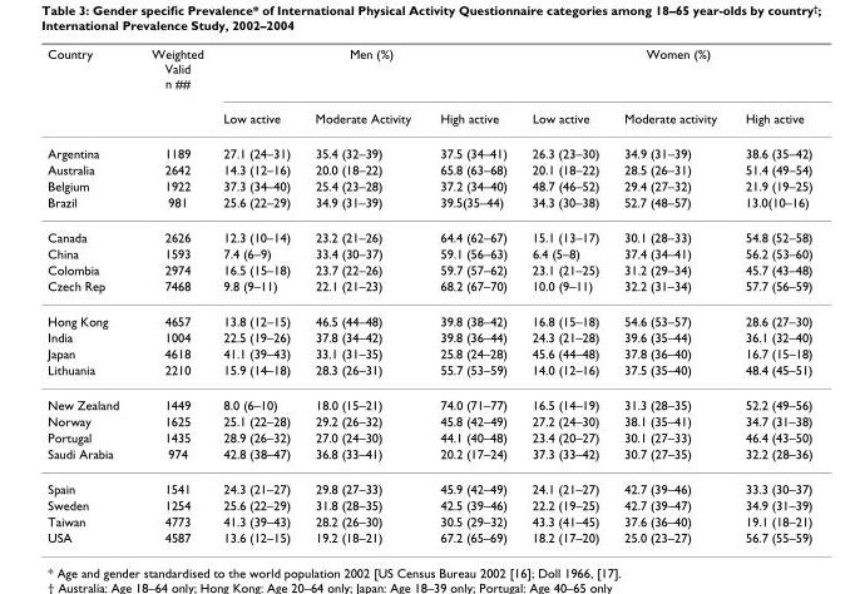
<table><thead><tr><td rowspan="2">Country</td><td rowspan="2">Weighted Valid n ##</td><td colspan="3">Men (%)</td><td colspan="3">Women (%)</td></tr><tr><td>Low active</td><td>Moderate Activity</td><td>High active</td><td>Low active</td><td>Moderate activity</td><td>High active</td></tr></thead><tbody><tr><td>Argentina</td><td>1189</td><td>27.1 (24–31)</td><td>35.4 (32–39)</td><td>37.5 (34–41)</td><td>26.3 (23–30)</td><td>34.9 (31–39)</td><td>38.6 (35–42)</td></tr><tr><td>Australia</td><td>2642</td><td>14.3 (12–16)</td><td>20.0 (18–22)</td><td>65.8 (63–68)</td><td>20.1 (18–22)</td><td>28.5 (26–31)</td><td>51.4 (49–54)</td></tr><tr><td>Belgium</td><td>1922</td><td>37.3 (34–40)</td><td>25.4 (23–28)</td><td>37.2 (34–40)</td><td>48.7 (46–52)</td><td>29.4 (27–32)</td><td>21.9 (19–25)</td></tr><tr><td>Brazil</td><td>981</td><td>25.6 (22–29)</td><td>34.9 (31–39)</td><td>39.5(35–44)</td><td>34.3 (30–38)</td><td>52.7 (48–57)</td><td>13.0(10–16)</td></tr><tr><td>Canada</td><td>2626</td><td>12.3 (10–14)</td><td>23.2 (21–26)</td><td>64.4 (62–67)</td><td>15.1 (13–17)</td><td>30.1 (28–33)</td><td>54.8 (52–58)</td></tr><tr><td>China</td><td>1593</td><td>7.4 (6–9)</td><td>33.4 (30–37)</td><td>59.1 (56–63)</td><td>6.4 (5–8)</td><td>37.4 (34–41)</td><td>56.2 (53–60)</td></tr><tr><td>Colombia</td><td>2974</td><td>16.5 (15–18)</td><td>23.7 (22–26)</td><td>59.7 (57–62)</td><td>23.1 (21–25)</td><td>31.2 (29–34)</td><td>45.7 (43–48)</td></tr><tr><td>Czech Rep</td><td>7468</td><td>9.8 (9–11)</td><td>22.1 (21–23)</td><td>68.2 (67–70)</td><td>10.0 (9–11)</td><td>32.2 (31–34)</td><td>57.7 (56–59)</td></tr><tr><td>Hong Kong</td><td>4657</td><td>13.8 (12–15)</td><td>46.5 (44–48)</td><td>39.8 (38–42)</td><td>16.8 (15–18)</td><td>54.6 (53–57)</td><td>28.6 (27–30)</td></tr><tr><td>India</td><td>1004</td><td>22.5 (19–26)</td><td>37.8 (34–42)</td><td>39.8 (36–44)</td><td>24.3 (21–28)</td><td>39.6 (35–44)</td><td>36.1 (32–40)</td></tr><tr><td>Japan</td><td>4618</td><td>41.1 (39–43)</td><td>33.1 (31–35)</td><td>25.8 (24–28)</td><td>45.6 (44–48)</td><td>37.8 (36–40)</td><td>16.7 (15–18)</td></tr><tr><td>Lithuania</td><td>2210</td><td>15.9 (14–18)</td><td>28.3 (26–31)</td><td>55.7 (53–59)</td><td>14.0 (12–16)</td><td>37.5 (35–40)</td><td>48.4 (45–51)</td></tr><tr><td>New Zealand</td><td>1449</td><td>8.0 (6–10)</td><td>18.0 (15–21)</td><td>74.0 (71–77)</td><td>16.5 (14–19)</td><td>31.3 (28–35)</td><td>52.2 (49–56)</td></tr><tr><td>Norway</td><td>1625</td><td>25.1 (22–28)</td><td>29.2 (26–32)</td><td>45.8 (42–49)</td><td>27.2 (24–30)</td><td>38.1 (35–41)</td><td>34.7 (31–38)</td></tr><tr><td>Portugal</td><td>1435</td><td>28.9 (26–32)</td><td>27.0 (24–30)</td><td>44.1 (40–48)</td><td>23.4 (20–27)</td><td>30.1 (27–33)</td><td>46.4 (43–50)</td></tr><tr><td>Saudi Arabia</td><td>974</td><td>42.8 (38–47)</td><td>36.8 (33–41)</td><td>20.2 (17–24)</td><td>37.3 (33–42)</td><td>30.7 (27–35)</td><td>32.2 (28–36)</td></tr><tr><td>Spain</td><td>1541</td><td>24.3 (21–27)</td><td>29.8 (27–33)</td><td>45.9 (42–49)</td><td>24.1 (21–27)</td><td>42.7 (39–46)</td><td>33.3 (30–37)</td></tr><tr><td>Sweden</td><td>1254</td><td>25.6 (22–29)</td><td>31.8 (28–35)</td><td>42.5 (39–46)</td><td>22.2 (19–25)</td><td>42.7 (39–47)</td><td>34.9 (31–39)</td></tr><tr><td>Taiwan</td><td>4773</td><td>41.3 (39–43)</td><td>28.2 (26–30)</td><td>30.5 (29–32)</td><td>43.3 (41–45)</td><td>37.6 (36–40)</td><td>19.1 (18–21)</td></tr><tr><td>USA</td><td>4587</td><td>13.6 (12–15)</td><td>19.2 (18–21)</td><td>67.2 (65–69)</td><td>18.2 (17–20)</td><td>25.0 (23–27)</td><td>56.7 (55–59)</td></tr></tbody></table>